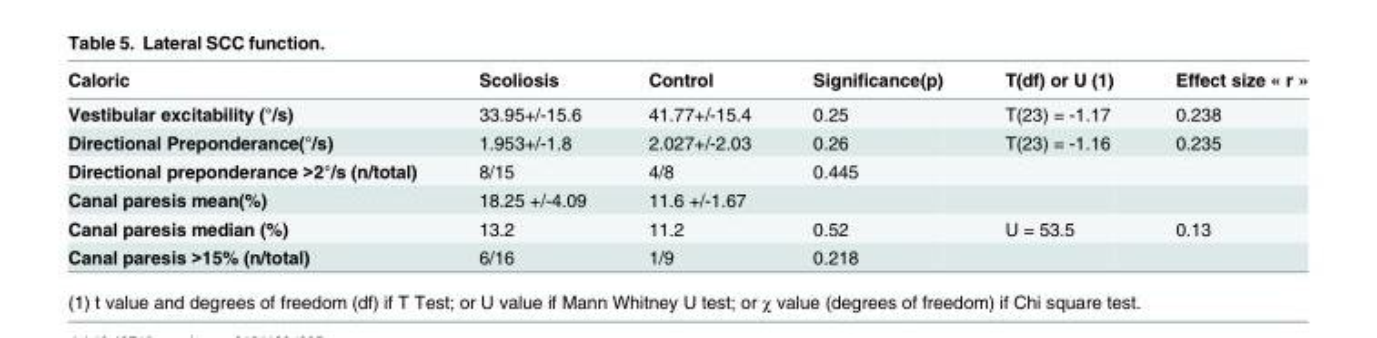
<table><thead><tr><td>Caloric</td><td>Scoliosis</td><td>Control</td><td>Significance(p)</td><td>T(df) or U (1)</td><td>Effect size « r »</td></tr></thead><tbody><tr><td>Vestibular excitability (°/s)</td><td>33.95+/-15.6</td><td>41.77+/-15.4</td><td>0.25</td><td>T(23) = -1.17</td><td>0.238</td></tr><tr><td>Directional Preponderance(°/s)</td><td>1.953+/-1.8</td><td>2.027+/-2.03</td><td>0.26</td><td>T(23) = -1.16</td><td>0.235</td></tr><tr><td>Directional preponderance &gt;2°/s (n/total)</td><td>8/15</td><td>4/8</td><td>0.445</td><td></td><td></td></tr><tr><td>Canal paresis mean(%)</td><td>18.25 +/-4.09</td><td>11.6 +/-1.67</td><td></td><td></td><td></td></tr><tr><td>Canal paresis median (%)</td><td>13.2</td><td>11.2</td><td>0.52</td><td>U = 53.5</td><td>0.13</td></tr><tr><td>Canal paresis &gt;15% (n/total)</td><td>6/16</td><td>1/9</td><td>0.218</td><td></td><td></td></tr></tbody></table>